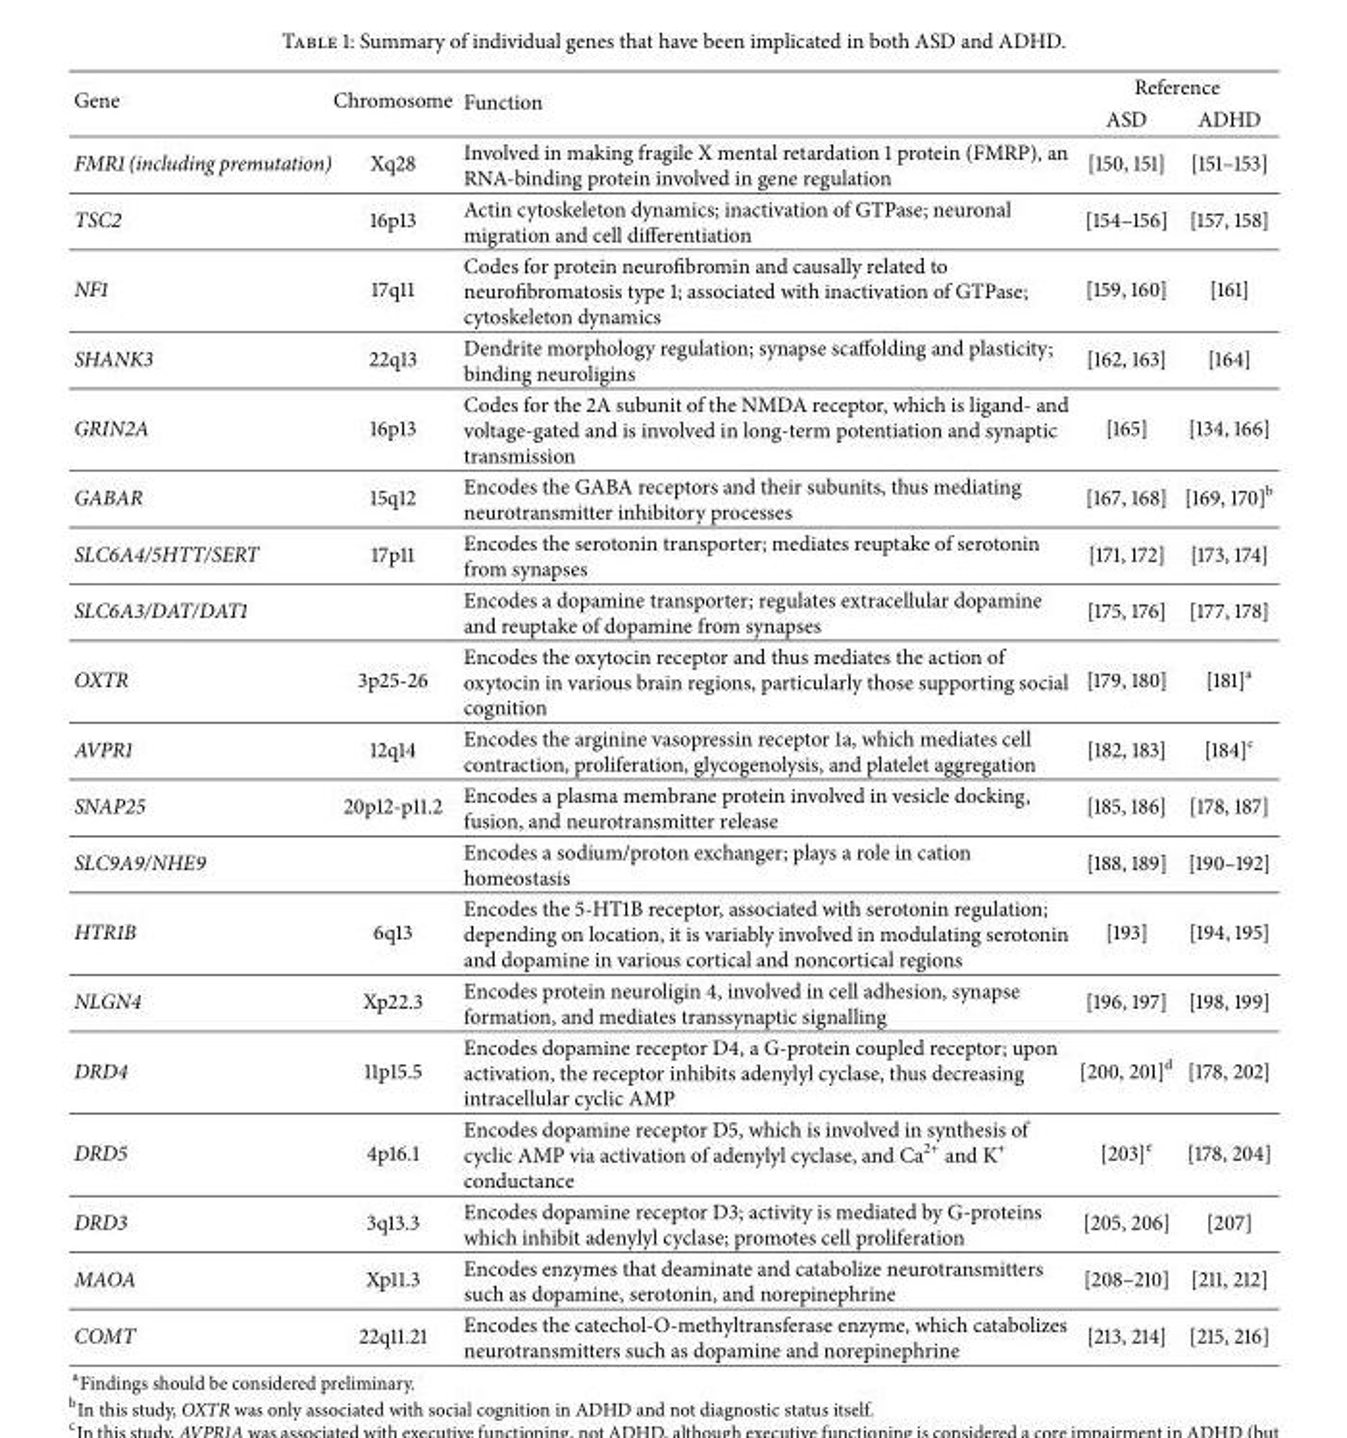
<table><thead><tr><td rowspan="2">Gene</td><td rowspan="2">Chromosome</td><td rowspan="2">Function</td><td colspan="2">Reference</td></tr><tr><td>ASD</td><td>ADHD</td></tr></thead><tbody><tr><td>FMR1 (including premutation)</td><td>Xq28</td><td>Involved in making fragile X mental retardation 1 protein (FMRP), an RNA-binding protein involved in gene regulation</td><td>[150, 151]</td><td>[151–153]</td></tr><tr><td>TSC2</td><td>16p13</td><td>Actin cytoskeleton dynamics; inactivation of GTPase; neuronal migration and cell differentiation</td><td>[154–156]</td><td>[157, 158]</td></tr><tr><td>NF1</td><td>17q11</td><td>Codes for protein neurofibromin and causally related to neurofibromatosis type 1; associated with inactivation of GTPase; cytoskeleton dynamics</td><td>[159, 160]</td><td>[161]</td></tr><tr><td>SHANK3</td><td>22q13</td><td>Dendrite morphology regulation; synapse scaffolding and plasticity; binding neuroligins</td><td>[162, 163]</td><td>[164]</td></tr><tr><td>GRIN2A</td><td>16p13</td><td>Codes for the 2A subunit of the NMDA receptor, which is ligand- and voltage-gated and is involved in long-term potentiation and synaptic transmission</td><td>[165]</td><td>[134, 166]</td></tr><tr><td>GABAR</td><td>15q12</td><td>Encodes the GABA receptors and their subunits, thus mediating neurotransmitter inhibitory processes</td><td>[167, 168]</td><td>[169, 170]<sup>b</sup></td></tr><tr><td>SLC6A4/5HTT/SERT</td><td>17p11</td><td>Encodes the serotonin transporter; mediates reuptake of serotonin from synapses</td><td>[171, 172]</td><td>[173, 174]</td></tr><tr><td>SLC6A3/DAT/DAT1</td><td></td><td>Encodes a dopamine transporter; regulates extracellular dopamine and reuptake of dopamine from synapses</td><td>[175, 176]</td><td>[177, 178]</td></tr><tr><td>OXTR</td><td>3p25-26</td><td>Encodes the oxytocin receptor and thus mediates the action of oxytocin in various brain regions, particularly those supporting social cognition</td><td>[179, 180]</td><td>[181]<sup>a</sup></td></tr><tr><td>AVPR1</td><td>12q14</td><td>Encodes the arginine vasopressin receptor 1a, which mediates cell contraction, proliferation, glycogenolysis, and platelet aggregation</td><td>[182, 183]</td><td>[184]<sup>c</sup></td></tr><tr><td>SNAP25</td><td>20p12-p11.2</td><td>Encodes a plasma membrane protein involved in vesicle docking, fusion, and neurotransmitter release</td><td>[185, 186]</td><td>[178, 187]</td></tr><tr><td>SLC9A9/NHE9</td><td></td><td>Encodes a sodium/proton exchanger; plays a role in cation homeostasis</td><td>[188, 189]</td><td>[190–192]</td></tr><tr><td>HTR1B</td><td>6q13</td><td>Encodes the 5-HT1B receptor, associated with serotonin regulation; depending on location, it is variably involved in modulating serotonin and dopamine in various cortical and noncortical regions</td><td>[193]</td><td>[194, 195]</td></tr><tr><td>NLGN4</td><td>Xp22.3</td><td>Encodes protein neuroligin 4, involved in cell adhesion, synapse formation, and mediates transsynaptic signalling</td><td>[196, 197]</td><td>[198, 199]</td></tr><tr><td>DRD4</td><td>11p15.5</td><td>Encodes dopamine receptor D4, a G-protein coupled receptor; upon activation, the receptor inhibits adenylyl cyclase, thus decreasing intracellular cyclic AMP</td><td>[200, 201]<sup>d</sup></td><td>[178, 202]</td></tr><tr><td>DRD5</td><td>4p16.1</td><td>Encodes dopamine receptor D5, which is involved in synthesis of cyclic AMP via activation of adenylyl cyclase, and Ca<sup>2+</sup> and K<sup>+</sup> conductance</td><td>[203]<sup>e</sup></td><td>[178, 204]</td></tr><tr><td>DRD3</td><td>3q13.3</td><td>Encodes dopamine receptor D3; activity is mediated by G-proteins which inhibit adenylyl cyclase; promotes cell proliferation</td><td>[205, 206]</td><td>[207]</td></tr><tr><td>MAOA</td><td>Xp11.3</td><td>Encodes enzymes that deaminate and catabolize neurotransmitters such as dopamine, serotonin, and norepinephrine</td><td>[208–210]</td><td>[211, 212]</td></tr><tr><td>COMT</td><td>22q11.21</td><td>Encodes the catechol-O-methyltransferase enzyme, which catabolizes neurotransmitters such as dopamine and norepinephrine</td><td>[213, 214]</td><td>[215, 216]</td></tr></tbody></table>